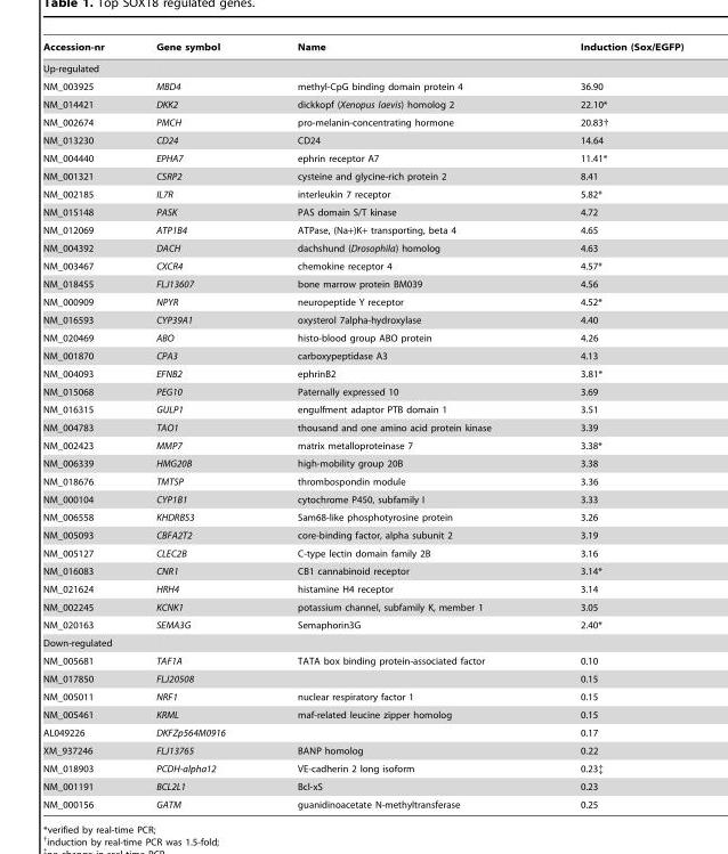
<table><thead><tr><td>Accession-nr</td><td>Gene symbol</td><td>Name</td><td>Induction (Sox/EGFP)</td></tr></thead><tbody><tr><td colspan="4">Up-regulated</td></tr><tr><td>NM_003925</td><td>MBD4</td><td>methyl-CpG binding domain protein 4</td><td>36.90</td></tr><tr><td>NM_014421</td><td>DKK2</td><td>dickkopf (Xenopus laevis) homolog 2</td><td>22.10*</td></tr><tr><td>NM_002674</td><td>PMCH</td><td>pro-melanin-concentrating hormone</td><td>20.83†</td></tr><tr><td>NM_013230</td><td>CD24</td><td>CD24</td><td>14.64</td></tr><tr><td>NM_004440</td><td>EPHA7</td><td>ephrin receptor A7</td><td>11.41*</td></tr><tr><td>NM_001321</td><td>CSRP2</td><td>cysteine and glycine-rich protein 2</td><td>8.41</td></tr><tr><td>NM_002185</td><td>IL7R</td><td>interleukin 7 receptor</td><td>5.82*</td></tr><tr><td>NM_015148</td><td>PASK</td><td>PAS domain S/T kinase</td><td>4.72</td></tr><tr><td>NM_012069</td><td>ATP1B4</td><td>ATPase, (Na+)K+ transporting, beta 4</td><td>4.65</td></tr><tr><td>NM_004392</td><td>DACH</td><td>dachshund (Drosophila) homolog</td><td>4.63</td></tr><tr><td>NM_003467</td><td>CXCR4</td><td>chemokine receptor 4</td><td>4.57*</td></tr><tr><td>NM_018455</td><td>FLJ13607</td><td>bone marrow protein BM039</td><td>4.56</td></tr><tr><td>NM_000909</td><td>NPYR</td><td>neuropeptide Y receptor</td><td>4.52*</td></tr><tr><td>NM_016593</td><td>CYP39A1</td><td>oxysterol 7alpha-hydroxylase</td><td>4.40</td></tr><tr><td>NM_020469</td><td>ABO</td><td>histo-blood group ABO protein</td><td>4.26</td></tr><tr><td>NM_001870</td><td>CPA3</td><td>carboxypeptidase A3</td><td>4.13</td></tr><tr><td>NM_004093</td><td>EFNB2</td><td>ephrinB2</td><td>3.81*</td></tr><tr><td>NM_015068</td><td>PEG10</td><td>Paternally expressed 10</td><td>3.69</td></tr><tr><td>NM_016315</td><td>GULP1</td><td>engulfment adaptor PTB domain 1</td><td>3.51</td></tr><tr><td>NM_004783</td><td>TAO1</td><td>thousand and one amino acid protein kinase</td><td>3.39</td></tr><tr><td>NM_002423</td><td>MMP7</td><td>matrix metalloproteinase 7</td><td>3.38*</td></tr><tr><td>NM_006339</td><td>HMG20B</td><td>high-mobility group 20B</td><td>3.38</td></tr><tr><td>NM_018676</td><td>TMTSP</td><td>thrombospondin module</td><td>3.36</td></tr><tr><td>NM_000104</td><td>CYP1B1</td><td>cytochrome P450, subfamily I</td><td>3.33</td></tr><tr><td>NM_006558</td><td>KHDRBS3</td><td>Sam68-like phosphotyrosine protein</td><td>3.26</td></tr><tr><td>NM_005093</td><td>CBFA2T2</td><td>core-binding factor, alpha subunit 2</td><td>3.19</td></tr><tr><td>NM_005127</td><td>CLEC2B</td><td>C-type lectin domain family 2B</td><td>3.16</td></tr><tr><td>NM_016083</td><td>CNR1</td><td>CB1 cannabinoid receptor</td><td>3.14*</td></tr><tr><td>NM_021624</td><td>HRH4</td><td>histamine H4 receptor</td><td>3.14</td></tr><tr><td>NM_002245</td><td>KCNK1</td><td>potassium channel, subfamily K, member 1</td><td>3.05</td></tr><tr><td>NM_020163</td><td>SEMA3G</td><td>Semaphorin3G</td><td>2.40*</td></tr><tr><td colspan="4">Down-regulated</td></tr><tr><td>NM_005681</td><td>TAF1A</td><td>TATA box binding protein-associated factor</td><td>0.10</td></tr><tr><td>NM_017850</td><td>FLJ20508</td><td></td><td>0.15</td></tr><tr><td>NM_005011</td><td>NRF1</td><td>nuclear respiratory factor 1</td><td>0.15</td></tr><tr><td>NM_005461</td><td>KRML</td><td>maf-related leucine zipper homolog</td><td>0.15</td></tr><tr><td>AL049226</td><td>DKFZp564M0916</td><td></td><td>0.17</td></tr><tr><td>XM_937246</td><td>FLJ13765</td><td>BANP homolog</td><td>0.22</td></tr><tr><td>NM_018903</td><td>PCDH-alpha12</td><td>VE-cadherin 2 long isoform</td><td>0.23‡</td></tr><tr><td>NM_001191</td><td>BCL2L1</td><td>Bcl-xS</td><td>0.23</td></tr><tr><td>NM_000156</td><td>GATM</td><td>guanidinoacetate N-methyltransferase</td><td>0.25</td></tr></tbody></table>